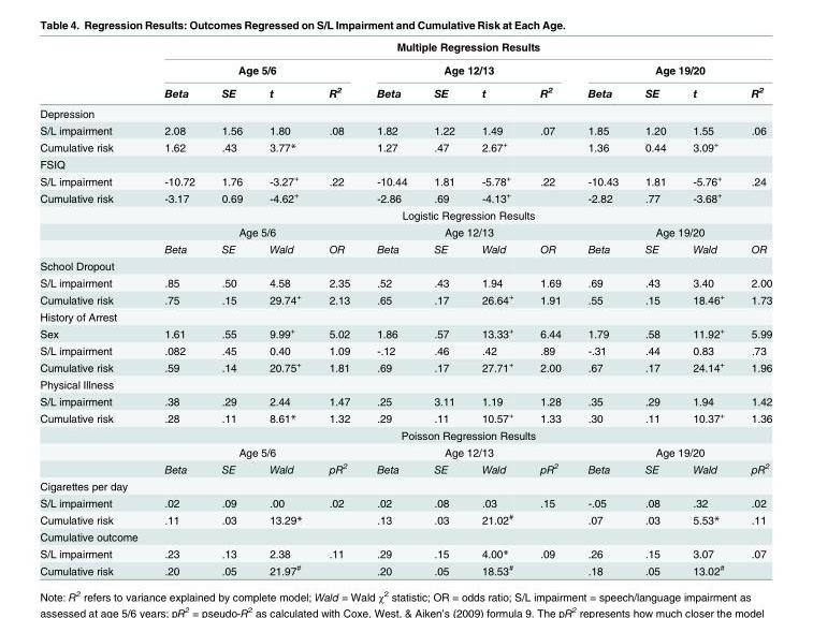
<table><thead><tr><td rowspan="3"></td><td colspan="12">Multiple Regression Results</td></tr><tr><td colspan="4">Age 5/6</td><td colspan="4">Age 12/13</td><td colspan="4">Age 19/20</td></tr><tr><td>Beta</td><td>SE</td><td>t</td><td>R<sup>2</sup></td><td>Beta</td><td>SE</td><td>t</td><td>R<sup>2</sup></td><td>Beta</td><td>SE</td><td>t</td><td>R<sup>2</sup></td></tr></thead><tbody><tr><td colspan="13">Depression</td></tr><tr><td>S/L impairment</td><td>2.08</td><td>1.56</td><td>1.80</td><td>.08</td><td>1.82</td><td>1.22</td><td>1.49</td><td>.07</td><td>1.85</td><td>1.20</td><td>1.55</td><td>.06</td></tr><tr><td>Cumulative risk</td><td>1.62</td><td>.43</td><td>3.77*</td><td></td><td>1.27</td><td>.47</td><td>2.67<sup>+</sup></td><td></td><td>1.36</td><td>0.44</td><td>3.09<sup>+</sup></td><td></td></tr><tr><td colspan="13">FSIQ</td></tr><tr><td>S/L impairment</td><td>-10.72</td><td>1.76</td><td>-3.27<sup>+</sup></td><td>.22</td><td>-10.44</td><td>1.81</td><td>-5.78<sup>+</sup></td><td>.22</td><td>-10.43</td><td>1.81</td><td>-5.76<sup>+</sup></td><td>.24</td></tr><tr><td rowspan="4">Cumulative risk</td><td>-3.17</td><td>0.69</td><td>-4.62<sup>+</sup></td><td></td><td>-2.86</td><td>.69</td><td>-4.13<sup>+</sup></td><td></td><td>-2.82</td><td>.77</td><td>-3.68<sup>+</sup></td><td></td></tr><tr><td colspan="12">Logistic Regression Results</td></tr><tr><td colspan="4">Age 5/6</td><td colspan="4">Age 12/13</td><td colspan="4">Age 19/20</td></tr><tr><td>Beta</td><td>SE</td><td>Wald</td><td>OR</td><td>Beta</td><td>SE</td><td>Wald</td><td>OR</td><td>Beta</td><td>SE</td><td>Wald</td><td>OR</td></tr><tr><td colspan="13">School Dropout</td></tr><tr><td>S/L impairment</td><td>.85</td><td>.50</td><td>4.58</td><td>2.35</td><td>.52</td><td>.43</td><td>1.94</td><td>1.69</td><td>.69</td><td>.43</td><td>3.40</td><td>2.00</td></tr><tr><td>Cumulative risk</td><td>.75</td><td>.15</td><td>29.74<sup>+</sup></td><td>2.13</td><td>.65</td><td>.17</td><td>26.64<sup>+</sup></td><td>1.91</td><td>.55</td><td>.15</td><td>18.46<sup>+</sup></td><td>1.73</td></tr><tr><td colspan="13">History of Arrest</td></tr><tr><td>Sex</td><td>1.61</td><td>.55</td><td>9.99<sup>+</sup></td><td>5.02</td><td>1.86</td><td>.57</td><td>13.33<sup>+</sup></td><td>6.44</td><td>1.79</td><td>.58</td><td>11.92<sup>+</sup></td><td>5.99</td></tr><tr><td>S/L impairment</td><td>.082</td><td>.45</td><td>0.40</td><td>1.09</td><td>-.12</td><td>.46</td><td>.42</td><td>.89</td><td>-.31</td><td>.44</td><td>0.83</td><td>.73</td></tr><tr><td>Cumulative risk</td><td>.59</td><td>.14</td><td>20.75<sup>+</sup></td><td>1.81</td><td>.69</td><td>.17</td><td>27.71<sup>+</sup></td><td>2.00</td><td>.67</td><td>.17</td><td>24.14<sup>+</sup></td><td>1.96</td></tr><tr><td colspan="13">Physical Illness</td></tr><tr><td>S/L impairment</td><td>.38</td><td>.29</td><td>2.44</td><td>1.47</td><td>.25</td><td>3.11</td><td>1.19</td><td>1.28</td><td>.35</td><td>.29</td><td>1.94</td><td>1.42</td></tr><tr><td rowspan="4">Cumulative risk</td><td>.28</td><td>.11</td><td>8.61*</td><td>1.32</td><td>.29</td><td>.11</td><td>10.57<sup>+</sup></td><td>1.33</td><td>.30</td><td>.11</td><td>10.37<sup>+</sup></td><td>1.36</td></tr><tr><td colspan="12">Poisson Regression Results</td></tr><tr><td colspan="4">Age 5/6</td><td colspan="4">Age 12/13</td><td colspan="4">Age 19/20</td></tr><tr><td>Beta</td><td>SE</td><td>Wald</td><td>pR<sup>2</sup></td><td>Beta</td><td>SE</td><td>Wald</td><td>pR<sup>2</sup></td><td>Beta</td><td>SE</td><td>Wald</td><td>pR<sup>2</sup></td></tr><tr><td colspan="13">Cigarettes per day</td></tr><tr><td>S/L impairment</td><td>.02</td><td>.09</td><td>.00</td><td>.02</td><td>.02</td><td>.08</td><td>.03</td><td>.15</td><td>-.05</td><td>.08</td><td>.32</td><td>.02</td></tr><tr><td>Cumulative risk</td><td>.11</td><td>.03</td><td>13.29*</td><td></td><td>.13</td><td>.03</td><td>21.02<sup>#</sup></td><td></td><td>.07</td><td>.03</td><td>5.53*</td><td>.11</td></tr><tr><td colspan="13">Cumulative outcome</td></tr><tr><td>S/L impairment</td><td>.23</td><td>.13</td><td>2.38</td><td>.11</td><td>.29</td><td>.15</td><td>4.00*</td><td>.09</td><td>.26</td><td>.15</td><td>3.07</td><td>.07</td></tr><tr><td>Cumulative risk</td><td>.20</td><td>.05</td><td>21.97<sup>#</sup></td><td></td><td>.20</td><td>.05</td><td>18.53<sup>#</sup></td><td></td><td>.18</td><td>.05</td><td>13.02<sup>#</sup></td><td></td></tr></tbody></table>